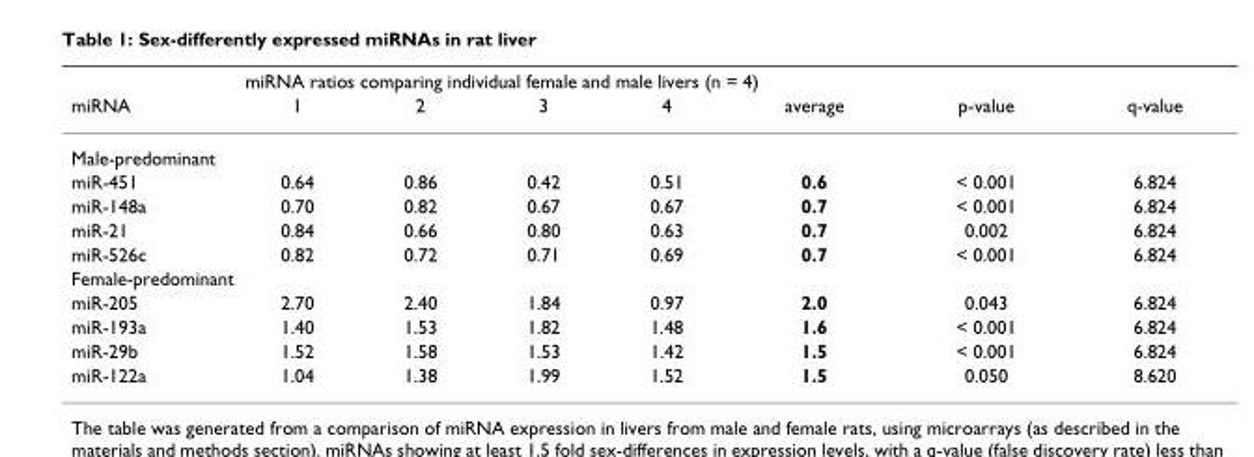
<table><thead><tr><td rowspan="2">miRNA</td><td colspan="7">miRNA ratios comparing individual female and male livers (n = 4)</td></tr><tr><td>1</td><td>2</td><td>3</td><td>4</td><td>average</td><td>p-value</td><td>q-value</td></tr></thead><tbody><tr><td colspan="8">Male-predominant</td></tr><tr><td>miR-451</td><td>0.64</td><td>0.86</td><td>0.42</td><td>0.51</td><td>0.6</td><td>&lt; 0.001</td><td>6.824</td></tr><tr><td>miR-148a</td><td>0.70</td><td>0.82</td><td>0.67</td><td>0.67</td><td>0.7</td><td>&lt; 0.001</td><td>6.824</td></tr><tr><td>miR-21</td><td>0.84</td><td>0.66</td><td>0.80</td><td>0.63</td><td>0.7</td><td>0.002</td><td>6.824</td></tr><tr><td>miR-526c</td><td>0.82</td><td>0.72</td><td>0.71</td><td>0.69</td><td>0.7</td><td>&lt; 0.001</td><td>6.824</td></tr><tr><td colspan="8">Female-predominant</td></tr><tr><td>miR-205</td><td>2.70</td><td>2.40</td><td>1.84</td><td>0.97</td><td>2.0</td><td>0.043</td><td>6.824</td></tr><tr><td>miR-193a</td><td>1.40</td><td>1.53</td><td>1.82</td><td>1.48</td><td>1.6</td><td>&lt; 0.001</td><td>6.824</td></tr><tr><td>miR-29b</td><td>1.52</td><td>1.58</td><td>1.53</td><td>1.42</td><td>1.5</td><td>&lt; 0.001</td><td>6.824</td></tr><tr><td>miR-122a</td><td>1.04</td><td>1.38</td><td>1.99</td><td>1.52</td><td>1.5</td><td>0.050</td><td>8.620</td></tr></tbody></table>